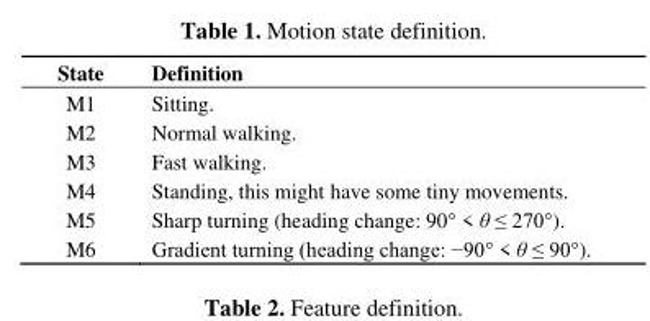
<table><thead><tr><td>State</td><td>Definition</td></tr></thead><tbody><tr><td>M1</td><td>Sitting.</td></tr><tr><td>M2</td><td>Normal walking.</td></tr><tr><td>M3</td><td>Fast walking.</td></tr><tr><td>M4</td><td>Standing, this might have some tiny movements.</td></tr><tr><td>M5</td><td>Sharp turning (heading change: 90° &lt; θ ≤ 270°).</td></tr><tr><td>M6</td><td>Gradient turning (heading change: −90° &lt; θ ≤ 90°).</td></tr></tbody></table>